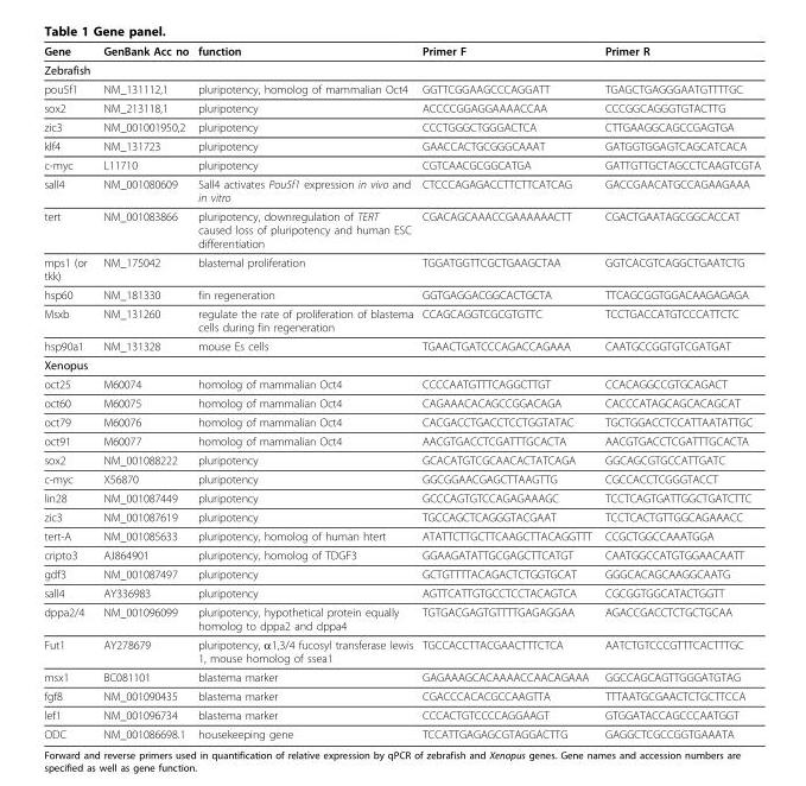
<table><thead><tr><td>Gene</td><td>GenBank Acc no</td><td>function</td><td>Primer F</td><td>Primer R</td></tr></thead><tbody><tr><td colspan="5">Zebrafish</td></tr><tr><td>pou5f1</td><td>NM_131112,1</td><td>pluripotency, homolog of mammalian Oct4</td><td>GGTTCGGAAGCCCAGGATT</td><td>TGAGCTGAGGGAATGTTTTGC</td></tr><tr><td>sox2</td><td>NM_213118,1</td><td>pluripotency</td><td>ACCCCGGAGGAAAACCAA</td><td>CCCGGCAGGGTGTACTTG</td></tr><tr><td>zic3</td><td>NM_001001950,2</td><td>pluripotency</td><td>CCCTGGGCTGGGACTCA</td><td>CTTGAAGGCAGCCGAGTGA</td></tr><tr><td>klf4</td><td>NM_131723</td><td>pluripotency</td><td>GAACCACTGCGGGCAAAT</td><td>GATGGTGGAGTCAGCATCACA</td></tr><tr><td>c-myc</td><td>L11710</td><td>pluripotency</td><td>CGTCAACGCGGCATGA</td><td>GATTGTTGCTAGCCTCAAGTCGTA</td></tr><tr><td>sall4</td><td>NM_001080609</td><td>Sall4 activates Pou5f1 expression in vivo and in vitro</td><td>CTCCCAGAGACCTTCTTCATCAG</td><td>GACCGAACATGCCAGAAGAAA</td></tr><tr><td>tert</td><td>NM_001083866</td><td>pluripotency, downregulation of TERT caused loss of pluripotency and human ESC differentiation</td><td>CGACAGCAAACCGAAAAAACTT</td><td>CGACTGAATAGCGGCACCAT</td></tr><tr><td>mps1 (or tkk)</td><td>NM_175042</td><td>blastemal proliferation</td><td>TGGATGGTTCGCTGAAGCTAA</td><td>GGTCACGTCAGGCTGAATCTG</td></tr><tr><td>hsp60</td><td>NM_181330</td><td>fin regeneration</td><td>GGTGAGGACGGCACTGCTA</td><td>TTCAGCGGTGGACAAGAGAGA</td></tr><tr><td>Msxb</td><td>NM_131260</td><td>regulate the rate of proliferation of blastema cells during fin regeneration</td><td>CCAGCAGGTCGCGTGTTC</td><td>TCCTGACCATGTCCCATTCTC</td></tr><tr><td>hsp90a1</td><td>NM_131328</td><td>mouse Es cells</td><td>TGAACTGATCCCAGACCAGAAA</td><td>CAATGCCGGTGTCGATGAT</td></tr><tr><td colspan="5">Xenopus</td></tr><tr><td>oct25</td><td>M60074</td><td>homolog of mammalian Oct4</td><td>CCCCAATGTTTCAGGCTTGT</td><td>CCACAGGCCGTGCAGACT</td></tr><tr><td>oct60</td><td>M60075</td><td>homolog of mammalian Oct4</td><td>CAGAAACACAGCCGGACAGA</td><td>CACCCATAGCAGCACAGCAT</td></tr><tr><td>oct79</td><td>M60076</td><td>homolog of mammalian Oct4</td><td>CACGACCTGACCTCCTGGTATAC</td><td>TGCTGGACCTCCATTAATATTGC</td></tr><tr><td>oct91</td><td>M60077</td><td>homolog of mammalian Oct4</td><td>AACGTGACCTCGATTTGCACTA</td><td>AACGTGACCTCGATTTGCACTA</td></tr><tr><td>sox2</td><td>NM_001088222</td><td>pluripotency</td><td>GCACATGTCGCAACACTATCAGA</td><td>GGCAGCGTGCCATTGATC</td></tr><tr><td>c-myc</td><td>X56870</td><td>pluripotency</td><td>GGCGGAACGAGCTTAAGTTG</td><td>CGCCACCTCGGGTACCT</td></tr><tr><td>lin28</td><td>NM_001087449</td><td>pluripotency</td><td>GCCCAGTGTCCAGAGAAAGC</td><td>TCCTCAGTGATTGGCTGATCTTC</td></tr><tr><td>zic3</td><td>NM_001087619</td><td>pluripotency</td><td>TGCCAGCTCAGGGTACGAAT</td><td>TCCTCACTGTTGGCAGAAACC</td></tr><tr><td>tert-A</td><td>NM_001085633</td><td>pluripotency, homolog of human htert</td><td>ATATTCTTGCTTCAAGCTTACAGGTTT</td><td>CCGCTGGCCAAATGGA</td></tr><tr><td>cripto3</td><td>AJ864901</td><td>pluripotency, homolog of TDGF3</td><td>GGAAGATATTGCGAGCTTCATGT</td><td>CAATGGCCATGTGGAACAATT</td></tr><tr><td>gdf3</td><td>NM_001087497</td><td>pluripotency</td><td>GCTGTTTTACAGACTCTGGTGCAT</td><td>GGGCACAGCAAGGCAATG</td></tr><tr><td>sall4</td><td>AY336983</td><td>pluripotency</td><td>AGTTCATTGTGCCTCCTACAGTCA</td><td>CGCGGTGGCATACTGGTT</td></tr><tr><td>dppa2/4</td><td>NM_001096099</td><td>pluripotency, hypothetical protein equally homolog to dppa2 and dppa4</td><td>TGTGACGAGTGTTTTGAGAGGAA</td><td>AGACCGACCTCTGCTGCAA</td></tr><tr><td>Fut1</td><td>AY278679</td><td>pluripotency, α1,3/4 fucosyl transferase lewis 1, mouse homolog of ssea1</td><td>TGCCACCTTACGAACTTTCTCA</td><td>AATCTGTCCCGTTTCACTTTGC</td></tr><tr><td>msx1</td><td>BC081101</td><td>blastema marker</td><td>GAGAAAGCACAAAACCAACAGAAA</td><td>GGCCAGCAGTTGGGATGTAG</td></tr><tr><td>fgf8</td><td>NM_001090435</td><td>blastema marker</td><td>CGACCCACACGCCAAGTTA</td><td>TTTAATGCGAACTCTGCTTCCA</td></tr><tr><td>lef1</td><td>NM_001096734</td><td>blastema marker</td><td>CCCACTGTCCCCAGGAAGT</td><td>GTGGATACCAGCCCAATGGT</td></tr><tr><td>ODC</td><td>NM_001086698.1</td><td>housekeeping gene</td><td>TCCATTGAGAGCGTAGGACTTG</td><td>GAGGCTCGCCGGTGAAATA</td></tr></tbody></table>